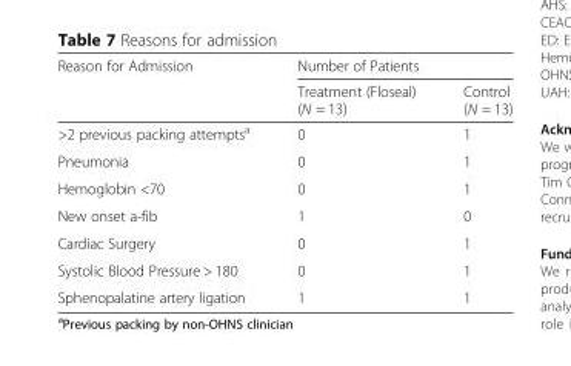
<table><thead><tr><td rowspan="2">Reason for Admission</td><td colspan="2">Number of Patients</td></tr><tr><td>Treatment (Floseal) (N = 13)</td><td>Control (N = 13)</td></tr></thead><tbody><tr><td>&gt;2 previous packing attempts<sup>a</sup></td><td>0</td><td>1</td></tr><tr><td>Pneumonia</td><td>0</td><td>1</td></tr><tr><td>Hemoglobin &lt;70</td><td>0</td><td>1</td></tr><tr><td>New onset a-fib</td><td>1</td><td>0</td></tr><tr><td>Cardiac Surgery</td><td>0</td><td>1</td></tr><tr><td>Systolic Blood Pressure &gt; 180</td><td>0</td><td>1</td></tr><tr><td>Sphenopalatine artery ligation</td><td>1</td><td>1</td></tr></tbody></table>